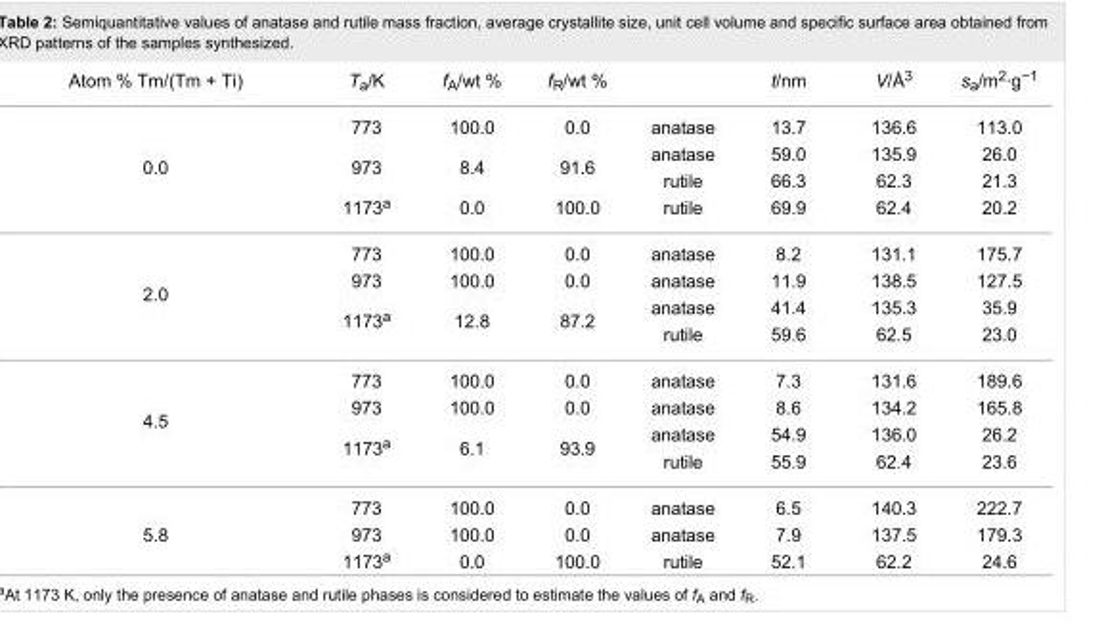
<table><tbody><tr><td>Atom % Tm/(Tm + Ti)</td><td>T<sub>a</sub>/K</td><td>f<sub>A</sub>/wt %</td><td>f<sub>R</sub>/wt %</td><td></td><td>t/nm</td><td>V/Å<sup>3</sup></td><td>s<sub>a</sub>/m<sup>2</sup>·g<sup>−1</sup></td></tr><tr><td rowspan="4">0.0</td><td>773</td><td>100.0</td><td>0.0</td><td>anatase</td><td>13.7</td><td>136.6</td><td>113.0</td></tr><tr><td rowspan="2">973</td><td rowspan="2">8.4</td><td rowspan="2">91.6</td><td>anatase</td><td>59.0</td><td>135.9</td><td>26.0</td></tr><tr><td>rutile</td><td>66.3</td><td>62.3</td><td>21.3</td></tr><tr><td>1173<sup>a</sup></td><td>0.0</td><td>100.0</td><td>rutile</td><td>69.9</td><td>62.4</td><td>20.2</td></tr><tr><td rowspan="4">2.0</td><td>773</td><td>100.0</td><td>0.0</td><td>anatase</td><td>8.2</td><td>131.1</td><td>175.7</td></tr><tr><td>973</td><td>100.0</td><td>0.0</td><td>anatase</td><td>11.9</td><td>138.5</td><td>127.5</td></tr><tr><td rowspan="2">1173<sup>a</sup></td><td rowspan="2">12.8</td><td rowspan="2">87.2</td><td>anatase</td><td>41.4</td><td>135.3</td><td>35.9</td></tr><tr><td>rutile</td><td>59.6</td><td>62.5</td><td>23.0</td></tr><tr><td rowspan="4">4.5</td><td>773</td><td>100.0</td><td>0.0</td><td>anatase</td><td>7.3</td><td>131.6</td><td>189.6</td></tr><tr><td>973</td><td>100.0</td><td>0.0</td><td>anatase</td><td>8.6</td><td>134.2</td><td>165.8</td></tr><tr><td rowspan="2">1173<sup>a</sup></td><td rowspan="2">6.1</td><td rowspan="2">93.9</td><td>anatase</td><td>54.9</td><td>136.0</td><td>26.2</td></tr><tr><td>rutile</td><td>55.9</td><td>62.4</td><td>23.6</td></tr><tr><td rowspan="3">5.8</td><td>773</td><td>100.0</td><td>0.0</td><td>anatase</td><td>6.5</td><td>140.3</td><td>222.7</td></tr><tr><td>973</td><td>100.0</td><td>0.0</td><td>anatase</td><td>7.9</td><td>137.5</td><td>179.3</td></tr><tr><td>1173<sup>a</sup></td><td>0.0</td><td>100.0</td><td>rutile</td><td>52.1</td><td>62.2</td><td>24.6</td></tr></tbody></table>